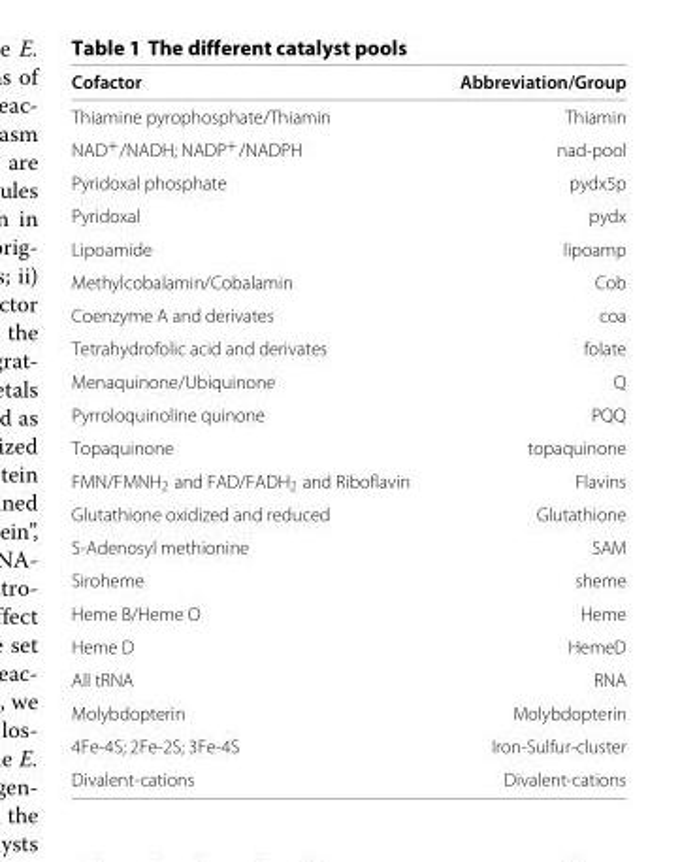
<table><thead><tr><td>Cofactor</td><td>Abbreviation/Group</td></tr></thead><tbody><tr><td>Thiamine pyrophosphate/Thiamin</td><td>Thiamin</td></tr><tr><td>NAD<sup>+</sup>/NADH; NADP<sup>+</sup>/NADPH</td><td>nad-pool</td></tr><tr><td>Pyridoxal phosphate</td><td>pydx5p</td></tr><tr><td>Pyridoxal</td><td>pydx</td></tr><tr><td>Lipoamide</td><td>lipoamp</td></tr><tr><td>Methylcobalamin/Cobalamin</td><td>Cob</td></tr><tr><td>Coenzyme A and derivates</td><td>coa</td></tr><tr><td>Tetrahydrofolic acid and derivates</td><td>folate</td></tr><tr><td>Menaquinone/Ubiquinone</td><td>Q</td></tr><tr><td>Pyrroloquinoline quinone</td><td>PQQ</td></tr><tr><td>Topaquinone</td><td>topaquinone</td></tr><tr><td>FMN/FMNH<sub>2</sub> and FAD/FADH<sub>2</sub> and Riboflavin</td><td>Flavins</td></tr><tr><td>Glutathione oxidized and reduced</td><td>Glutathione</td></tr><tr><td>S-Adenosyl methionine</td><td>SAM</td></tr><tr><td>Siroheme</td><td>sheme</td></tr><tr><td>Heme B/Heme O</td><td>Heme</td></tr><tr><td>Heme D</td><td>HemeD</td></tr><tr><td>All tRNA</td><td>RNA</td></tr><tr><td>Molybdopterin</td><td>Molybdopterin</td></tr><tr><td>4Fe-4S; 2Fe-2S; 3Fe-4S</td><td>Iron-Sulfur-cluster</td></tr><tr><td>Divalent-cations</td><td>Divalent-cations</td></tr></tbody></table>